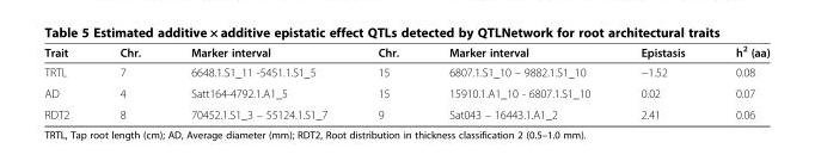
<table><thead><tr><td>Trait</td><td>Chr.</td><td>Marker interval</td><td>Chr.</td><td>Marker interval</td><td>Epistasis</td><td>h<sup>2</sup> (aa)</td></tr></thead><tbody><tr><td>TRTL</td><td>7</td><td>6648.1.S1_11 -5451.1.S1_5</td><td>15</td><td>6807.1.S1_10 – 9882.1.S1_10</td><td>−1.52</td><td>0.08</td></tr><tr><td>AD</td><td>4</td><td>Satt164-4792.1.A1_5</td><td>15</td><td>15910.1.A1_10 - 6807.1.S1_10</td><td>0.02</td><td>0.07</td></tr><tr><td>RDT2</td><td>8</td><td>70452.1.S1_3 – 55124.1.S1_7</td><td>9</td><td>Sat043 – 16443.1.A1_2</td><td>2.41</td><td>0.06</td></tr></tbody></table>